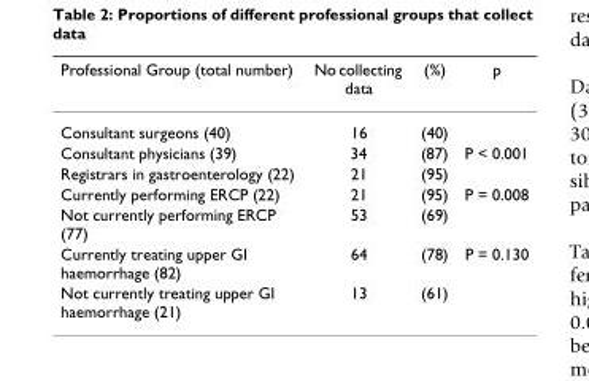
<table><thead><tr><td>Professional Group (total number)</td><td>No collecting data</td><td>(%)</td><td>p</td></tr></thead><tbody><tr><td>Consultant surgeons (40)</td><td>16</td><td>(40)</td><td></td></tr><tr><td>Consultant physicians (39)</td><td>34</td><td>(87)</td><td>P &lt; 0.001</td></tr><tr><td>Registrars in gastroenterology (22)</td><td>21</td><td>(95)</td><td></td></tr><tr><td>Currently performing ERCP (22)</td><td>21</td><td>(95)</td><td>P = 0.008</td></tr><tr><td>Not currently performing ERCP (77)</td><td>53</td><td>(69)</td><td></td></tr><tr><td>Currently treating upper GI haemorrhage (82)</td><td>64</td><td>(78)</td><td>P = 0.130</td></tr><tr><td>Not currently treating upper GI haemorrhage (21)</td><td>13</td><td>(61)</td><td></td></tr></tbody></table>